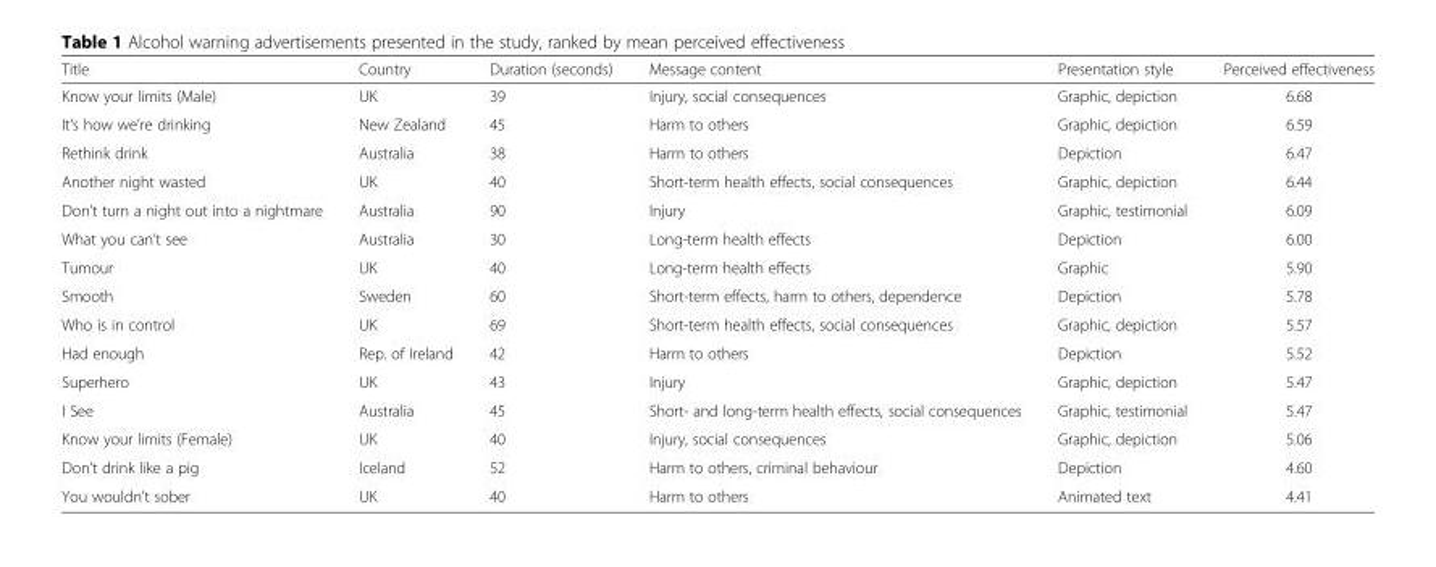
<table><thead><tr><td>Title</td><td>Country</td><td>Duration (seconds)</td><td>Message content</td><td>Presentation style</td><td>Perceived effectiveness</td></tr></thead><tbody><tr><td>Know your limits (Male)</td><td>UK</td><td>39</td><td>Injury, social consequences</td><td>Graphic, depiction</td><td>6.68</td></tr><tr><td>It’s how we’re drinking</td><td>New Zealand</td><td>45</td><td>Harm to others</td><td>Graphic, depiction</td><td>6.59</td></tr><tr><td>Rethink drink</td><td>Australia</td><td>38</td><td>Harm to others</td><td>Depiction</td><td>6.47</td></tr><tr><td>Another night wasted</td><td>UK</td><td>40</td><td>Short-term health effects, social consequences</td><td>Graphic, depiction</td><td>6.44</td></tr><tr><td>Don’t turn a night out into a nightmare</td><td>Australia</td><td>90</td><td>Injury</td><td>Graphic, testimonial</td><td>6.09</td></tr><tr><td>What you can’t see</td><td>Australia</td><td>30</td><td>Long-term health effects</td><td>Depiction</td><td>6.00</td></tr><tr><td>Tumour</td><td>UK</td><td>40</td><td>Long-term health effects</td><td>Graphic</td><td>5.90</td></tr><tr><td>Smooth</td><td>Sweden</td><td>60</td><td>Short-term effects, harm to others, dependence</td><td>Depiction</td><td>5.78</td></tr><tr><td>Who is in control</td><td>UK</td><td>69</td><td>Short-term health effects, social consequences</td><td>Graphic, depiction</td><td>5.57</td></tr><tr><td>Had enough</td><td>Rep. of Ireland</td><td>42</td><td>Harm to others</td><td>Depiction</td><td>5.52</td></tr><tr><td>Superhero</td><td>UK</td><td>43</td><td>Injury</td><td>Graphic, depiction</td><td>5.47</td></tr><tr><td>I See</td><td>Australia</td><td>45</td><td>Short- and long-term health effects, social consequences</td><td>Graphic, testimonial</td><td>5.47</td></tr><tr><td>Know your limits (Female)</td><td>UK</td><td>40</td><td>Injury, social consequences</td><td>Graphic, depiction</td><td>5.06</td></tr><tr><td>Don’t drink like a pig</td><td>Iceland</td><td>52</td><td>Harm to others, criminal behaviour</td><td>Depiction</td><td>4.60</td></tr><tr><td>You wouldn’t sober</td><td>UK</td><td>40</td><td>Harm to others</td><td>Animated text</td><td>4.41</td></tr></tbody></table>